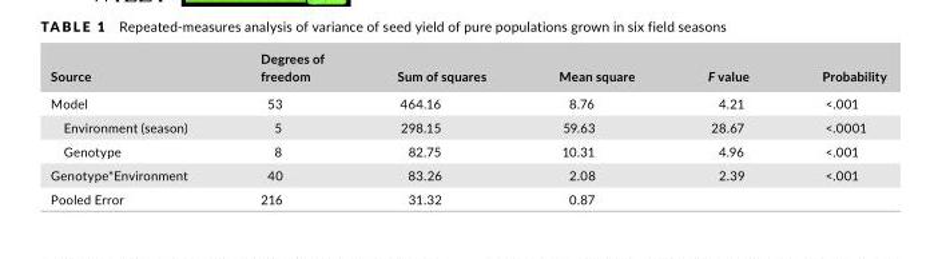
<table><thead><tr><td>Source</td><td>Degrees of freedom</td><td>Sum of squares</td><td>Mean square</td><td>F value</td><td>Probability</td></tr></thead><tbody><tr><td>Model</td><td>53</td><td>464.16</td><td>8.76</td><td>4.21</td><td>&lt;.001</td></tr><tr><td>Environment (season)</td><td>5</td><td>298.15</td><td>59.63</td><td>28.67</td><td>&lt;.0001</td></tr><tr><td>Genotype</td><td>8</td><td>82.75</td><td>10.31</td><td>4.96</td><td>&lt;.001</td></tr><tr><td>Genotype*Environment</td><td>40</td><td>83.26</td><td>2.08</td><td>2.39</td><td>&lt;.001</td></tr><tr><td>Pooled Error</td><td>216</td><td>31.32</td><td>0.87</td><td></td><td></td></tr></tbody></table>